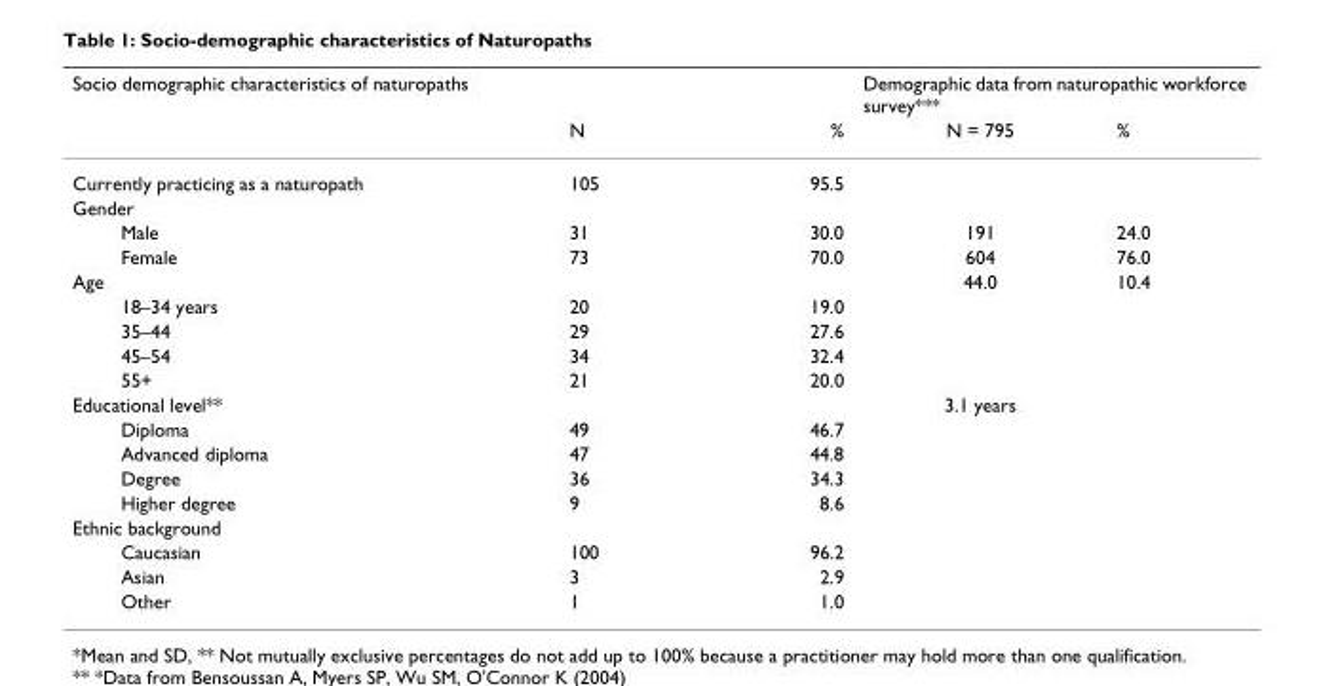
<table><thead><tr><td rowspan="2">Socio demographic characteristics of naturopaths</td><td rowspan="2">N</td><td rowspan="2">%</td><td colspan="2">Demographic data from naturopathic workforce survey***</td></tr><tr><td>N = 795</td><td>%</td></tr></thead><tbody><tr><td>Currently practicing as a naturopath</td><td>105</td><td>95.5</td><td></td><td></td></tr><tr><td colspan="5">Gender</td></tr><tr><td>Male</td><td>31</td><td>30.0</td><td>191</td><td>24.0</td></tr><tr><td>Female</td><td>73</td><td>70.0</td><td>604</td><td>76.0</td></tr><tr><td>Age</td><td></td><td></td><td>44.0</td><td>10.4</td></tr><tr><td>18–34 years</td><td>20</td><td>19.0</td><td></td><td></td></tr><tr><td>35–44</td><td>29</td><td>27.6</td><td></td><td></td></tr><tr><td>45–54</td><td>34</td><td>32.4</td><td></td><td></td></tr><tr><td>55+</td><td>21</td><td>20.0</td><td></td><td></td></tr><tr><td>Educational level**</td><td></td><td></td><td>3.1 years</td><td></td></tr><tr><td>Diploma</td><td>49</td><td>46.7</td><td></td><td></td></tr><tr><td>Advanced diploma</td><td>47</td><td>44.8</td><td></td><td></td></tr><tr><td>Degree</td><td>36</td><td>34.3</td><td></td><td></td></tr><tr><td>Higher degree</td><td>9</td><td>8.6</td><td></td><td></td></tr><tr><td colspan="5">Ethnic background</td></tr><tr><td>Caucasian</td><td>100</td><td>96.2</td><td></td><td></td></tr><tr><td>Asian</td><td>3</td><td>2.9</td><td></td><td></td></tr><tr><td>Other</td><td>1</td><td>1.0</td><td></td><td></td></tr></tbody></table>